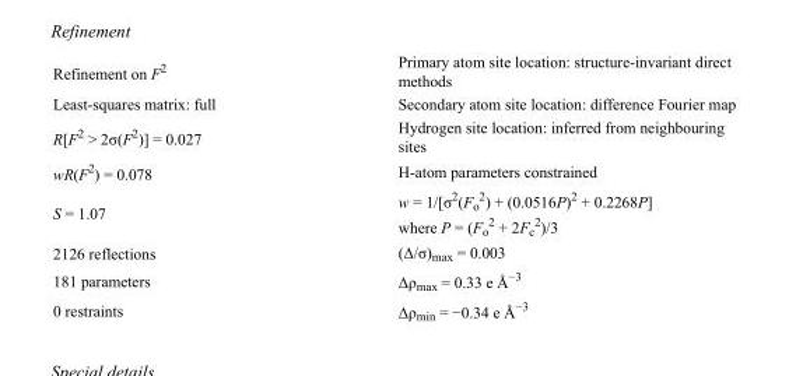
<table><tbody><tr><td>Refinement on F<sup>2</sup></td><td>Primary atom site location: structure-invariant direct methods</td></tr><tr><td>Least-squares matrix: full</td><td>Secondary atom site location: difference Fourier map</td></tr><tr><td>R[F<sup>2</sup> &gt; 2σ(F<sup>2</sup>)] = 0.027</td><td>Hydrogen site location: inferred from neighbouring sites</td></tr><tr><td>wR(F<sup>2</sup>) = 0.078</td><td>H-atom parameters constrained</td></tr><tr><td>S = 1.07</td><td>w = 1/[σ<sup>2</sup>(F<sub>o</sub> <sup>2</sup>) + (0.0516P)<sup>2</sup> + 0.2268P] where P = (F<sub>o</sub> <sup>2</sup> + 2F<sub>c</sub> <sup>2</sup>)/3</td></tr><tr><td>2126 reflections</td><td>(Δ/σ)<sub>max</sub> = 0.003</td></tr><tr><td>181 parameters</td><td>Δρ<sub>max</sub> = 0.33 e Å<sup>−3</sup></td></tr><tr><td>0 restraints</td><td>Δρ<sub>min</sub> = −0.34 e Å<sup>−3</sup></td></tr></tbody></table>